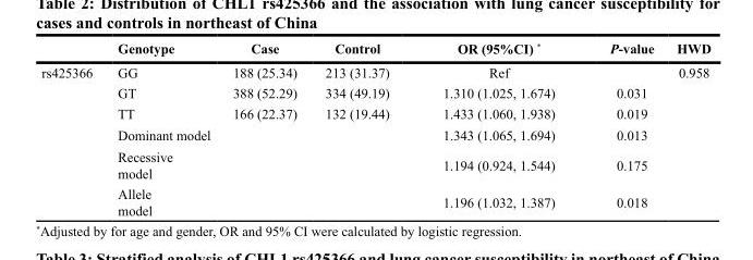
<table><thead><tr><td></td><td>Genotype</td><td>Case</td><td>Control</td><td>OR (95%CI) *</td><td>P-value</td><td>HWD</td></tr></thead><tbody><tr><td rowspan="6">rs425366</td><td>GG</td><td>188 (25.34)</td><td>213 (31.37)</td><td>Ref</td><td></td><td>0.958</td></tr><tr><td>GT</td><td>388 (52.29)</td><td>334 (49.19)</td><td>1.310 (1.025, 1.674)</td><td>0.031</td><td></td></tr><tr><td>TT</td><td>166 (22.37)</td><td>132 (19.44)</td><td>1.433 (1.060, 1.938)</td><td>0.019</td><td></td></tr><tr><td>Dominant model</td><td></td><td></td><td>1.343 (1.065, 1.694)</td><td>0.013</td><td></td></tr><tr><td>Recessive model</td><td></td><td></td><td>1.194 (0.924, 1.544)</td><td>0.175</td><td></td></tr><tr><td>Allele model</td><td></td><td></td><td>1.196 (1.032, 1.387)</td><td>0.018</td><td></td></tr></tbody></table>